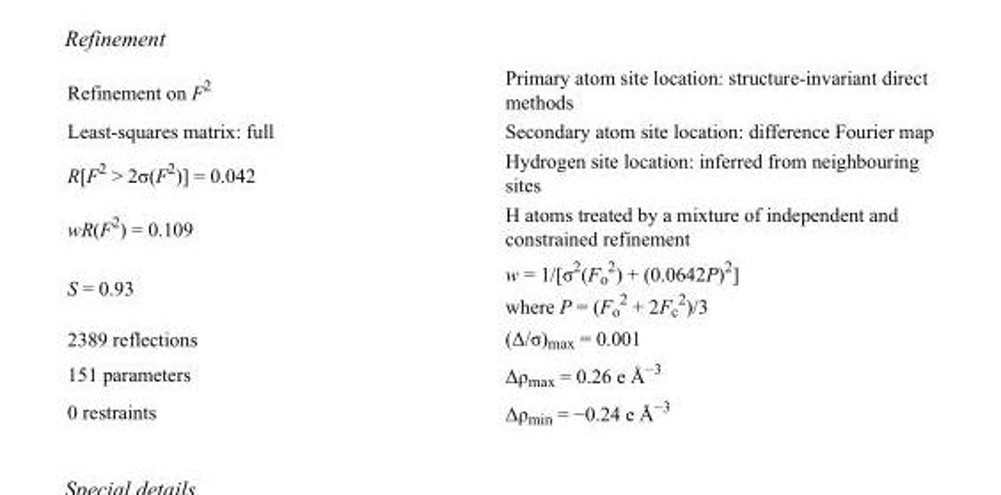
<table><tbody><tr><td>Refinement on F<sup>2</sup></td><td>Primary atom site location: structure-invariant direct methods</td></tr><tr><td>Least-squares matrix: full</td><td>Secondary atom site location: difference Fourier map</td></tr><tr><td>R[F<sup>2</sup> &gt; 2σ(F<sup>2</sup>)] = 0.042</td><td>Hydrogen site location: inferred from neighbouring sites</td></tr><tr><td>wR(F<sup>2</sup>) = 0.109</td><td>H atoms treated by a mixture of independent and constrained refinement</td></tr><tr><td>S = 0.93</td><td>w = 1/[σ<sup>2</sup>(F<sub>o</sub> <sup>2</sup>) + (0.0642P)<sup>2</sup>] where P = (F<sub>o</sub> <sup>2</sup> + 2F<sub>c</sub> <sup>2</sup>)/3</td></tr><tr><td>2389 reflections</td><td>(Δ/σ)<sub>max</sub> = 0.001</td></tr><tr><td>151 parameters</td><td>Δρ<sub>max</sub> = 0.26 e Å<sup>−3</sup></td></tr><tr><td>0 restraints</td><td>Δρ<sub>min</sub> = −0.24 e Å<sup>−3</sup></td></tr></tbody></table>